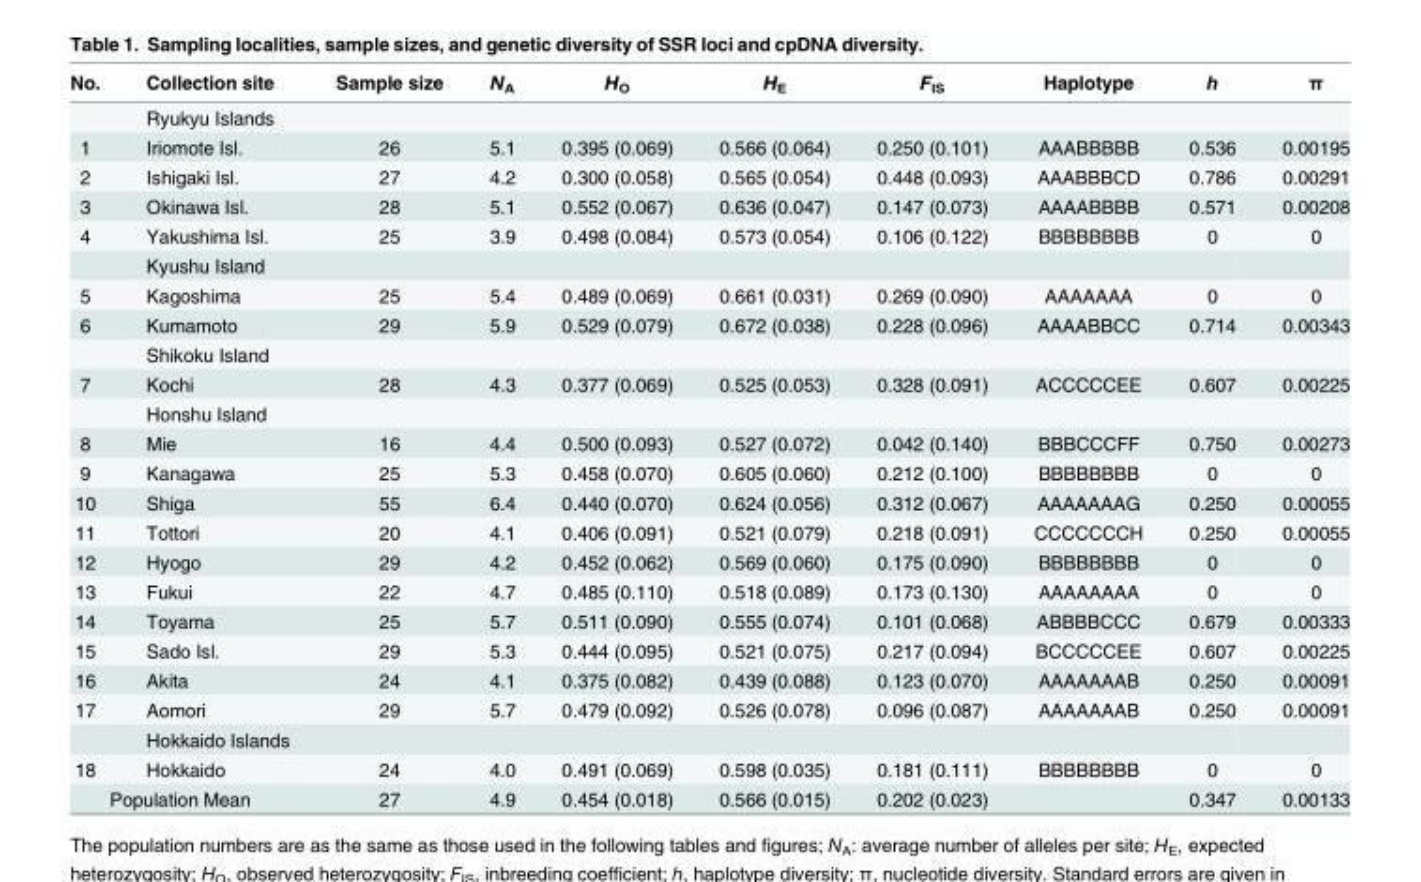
<table><thead><tr><td>No.</td><td>Collection site</td><td>Sample size</td><td>N<sub>A</sub></td><td>H<sub>O</sub></td><td>H<sub>E</sub></td><td>F<sub>IS</sub></td><td>Haplotype</td><td>h</td><td>π</td></tr></thead><tbody><tr><td></td><td>Ryukyu Islands</td><td></td><td></td><td></td><td></td><td></td><td></td><td></td><td></td></tr><tr><td>1</td><td>Iriomote Isl.</td><td>26</td><td>5.1</td><td>0.395 (0.069)</td><td>0.566 (0.064)</td><td>0.250 (0.101)</td><td>AAABBBBB</td><td>0.536</td><td>0.00195</td></tr><tr><td>2</td><td>Ishigaki Isl.</td><td>27</td><td>4.2</td><td>0.300 (0.058)</td><td>0.565 (0.054)</td><td>0.448 (0.093)</td><td>AAABBBCD</td><td>0.786</td><td>0.00291</td></tr><tr><td>3</td><td>Okinawa Isl.</td><td>28</td><td>5.1</td><td>0.552 (0.067)</td><td>0.636 (0.047)</td><td>0.147 (0.073)</td><td>AAAABBBB</td><td>0.571</td><td>0.00208</td></tr><tr><td rowspan="2">4</td><td>Yakushima Isl.</td><td>25</td><td>3.9</td><td>0.498 (0.084)</td><td>0.573 (0.054)</td><td>0.106 (0.122)</td><td>BBBBBBBB</td><td>0</td><td>0</td></tr><tr><td>Kyushu Island</td><td></td><td></td><td></td><td></td><td></td><td></td><td></td><td></td></tr><tr><td>5</td><td>Kagoshima</td><td>25</td><td>5.4</td><td>0.489 (0.069)</td><td>0.661 (0.031)</td><td>0.269 (0.090)</td><td>AAAAAAA</td><td>0</td><td>0</td></tr><tr><td rowspan="2">6</td><td>Kumamoto</td><td>29</td><td>5.9</td><td>0.529 (0.079)</td><td>0.672 (0.038)</td><td>0.228 (0.096)</td><td>AAAABBCC</td><td>0.714</td><td>0.00343</td></tr><tr><td>Shikoku Island</td><td></td><td></td><td></td><td></td><td></td><td></td><td></td><td></td></tr><tr><td rowspan="2">7</td><td>Kochi</td><td>28</td><td>4.3</td><td>0.377 (0.069)</td><td>0.525 (0.053)</td><td>0.328 (0.091)</td><td>ACCCCCEE</td><td>0.607</td><td>0.00225</td></tr><tr><td>Honshu Island</td><td></td><td></td><td></td><td></td><td></td><td></td><td></td><td></td></tr><tr><td>8</td><td>Mie</td><td>16</td><td>4.4</td><td>0.500 (0.093)</td><td>0.527 (0.072)</td><td>0.042 (0.140)</td><td>BBBCCCFF</td><td>0.750</td><td>0.00273</td></tr><tr><td>9</td><td>Kanagawa</td><td>25</td><td>5.3</td><td>0.458 (0.070)</td><td>0.605 (0.060)</td><td>0.212 (0.100)</td><td>BBBBBBBB</td><td>0</td><td>0</td></tr><tr><td>10</td><td>Shiga</td><td>55</td><td>6.4</td><td>0.440 (0.070)</td><td>0.624 (0.056)</td><td>0.312 (0.067)</td><td>AAAAAAAG</td><td>0.250</td><td>0.00055</td></tr><tr><td>11</td><td>Tottori</td><td>20</td><td>4.1</td><td>0.406 (0.091)</td><td>0.521 (0.079)</td><td>0.218 (0.091)</td><td>CCCCCCCH</td><td>0.250</td><td>0.00055</td></tr><tr><td>12</td><td>Hyogo</td><td>29</td><td>4.2</td><td>0.452 (0.062)</td><td>0.569 (0.060)</td><td>0.175 (0.090)</td><td>BBBBBBBB</td><td>0</td><td>0</td></tr><tr><td>13</td><td>Fukui</td><td>22</td><td>4.7</td><td>0.485 (0.110)</td><td>0.518 (0.089)</td><td>0.173 (0.130)</td><td>AAAAAAAA</td><td>0</td><td>0</td></tr><tr><td>14</td><td>Toyama</td><td>25</td><td>5.7</td><td>0.511 (0.090)</td><td>0.555 (0.074)</td><td>0.101 (0.068)</td><td>ABBBBCCC</td><td>0.679</td><td>0.00333</td></tr><tr><td>15</td><td>Sado Isl.</td><td>29</td><td>5.3</td><td>0.444 (0.095)</td><td>0.521 (0.075)</td><td>0.217 (0.094)</td><td>BCCCCCEE</td><td>0.607</td><td>0.00225</td></tr><tr><td>16</td><td>Akita</td><td>24</td><td>4.1</td><td>0.375 (0.082)</td><td>0.439 (0.088)</td><td>0.123 (0.070)</td><td>AAAAAAAB</td><td>0.250</td><td>0.00091</td></tr><tr><td rowspan="2">17</td><td>Aomori</td><td>29</td><td>5.7</td><td>0.479 (0.092)</td><td>0.526 (0.078)</td><td>0.096 (0.087)</td><td>AAAAAAAB</td><td>0.250</td><td>0.00091</td></tr><tr><td>Hokkaido Islands</td><td></td><td></td><td></td><td></td><td></td><td></td><td></td><td></td></tr><tr><td>18</td><td>Hokkaido</td><td>24</td><td>4.0</td><td>0.491 (0.069)</td><td>0.598 (0.035)</td><td>0.181 (0.111)</td><td>BBBBBBBB</td><td>0</td><td>0</td></tr><tr><td colspan="2">Population Mean</td><td>27</td><td>4.9</td><td>0.454 (0.018)</td><td>0.566 (0.015)</td><td>0.202 (0.023)</td><td></td><td>0.347</td><td>0.00133</td></tr></tbody></table>